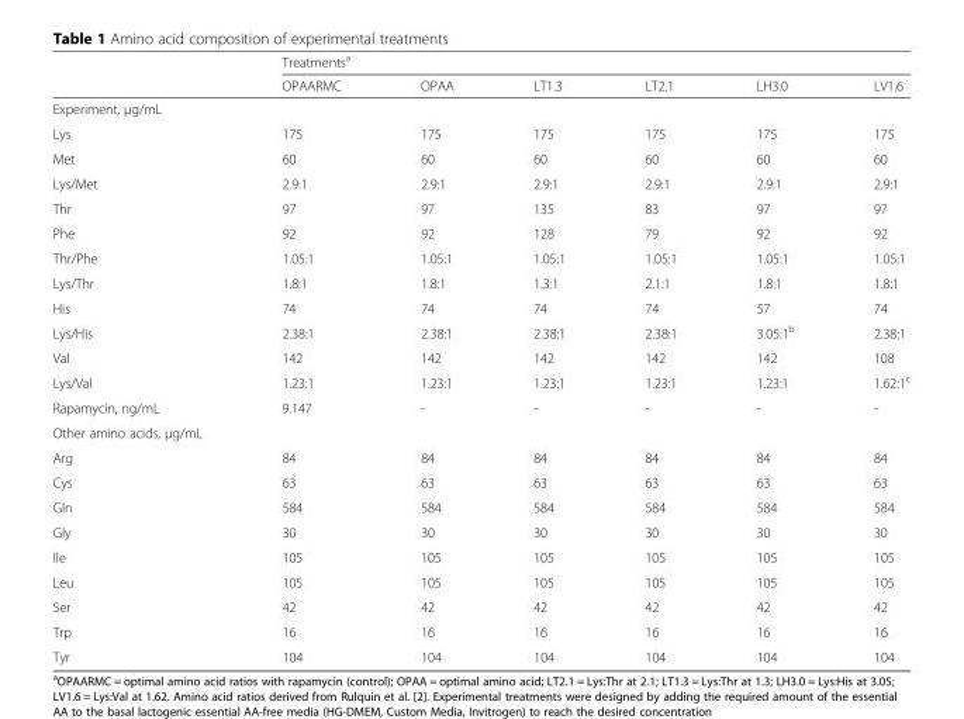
<table><thead><tr><td rowspan="2"></td><td colspan="6">Treatments<sup>a</sup></td></tr><tr><td>OPAARMC</td><td>OPAA</td><td>LT1.3</td><td>LT2.1</td><td>LH3.0</td><td>LV1.6</td></tr></thead><tbody><tr><td colspan="7">Experiment, μg/mL</td></tr><tr><td>Lys</td><td>175</td><td>175</td><td>175</td><td>175</td><td>175</td><td>175</td></tr><tr><td>Met</td><td>60</td><td>60</td><td>60</td><td>60</td><td>60</td><td>60</td></tr><tr><td>Lys/Met</td><td>2.9:1</td><td>2.9:1</td><td>2.9:1</td><td>2.9:1</td><td>2.9:1</td><td>2.9:1</td></tr><tr><td>Thr</td><td>97</td><td>97</td><td>135</td><td>83</td><td>97</td><td>97</td></tr><tr><td>Phe</td><td>92</td><td>92</td><td>128</td><td>79</td><td>92</td><td>92</td></tr><tr><td>Thr/Phe</td><td>1.05:1</td><td>1.05:1</td><td>1.05:1</td><td>1.05:1</td><td>1.05:1</td><td>1.05:1</td></tr><tr><td>Lys/Thr</td><td>1.8:1</td><td>1.8:1</td><td>1.3:1</td><td>2.1:1</td><td>1.8:1</td><td>1.8:1</td></tr><tr><td>His</td><td>74</td><td>74</td><td>74</td><td>74</td><td>57</td><td>74</td></tr><tr><td>Lys/His</td><td>2.38:1</td><td>2.38:1</td><td>2.38:1</td><td>2.38:1</td><td>3.05:1<sup>b</sup></td><td>2.38:1</td></tr><tr><td>Val</td><td>142</td><td>142</td><td>142</td><td>142</td><td>142</td><td>108</td></tr><tr><td>Lys/Val</td><td>1.23:1</td><td>1.23:1</td><td>1.23:1</td><td>1.23:1</td><td>1.23:1</td><td>1.62:1<sup>c</sup></td></tr><tr><td>Rapamycin, ng/mL</td><td>9.147</td><td>-</td><td>-</td><td>-</td><td>-</td><td>-</td></tr><tr><td colspan="7">Other amino acids, μg/mL</td></tr><tr><td>Arg</td><td>84</td><td>84</td><td>84</td><td>84</td><td>84</td><td>84</td></tr><tr><td>Cys</td><td>63</td><td>63</td><td>63</td><td>63</td><td>63</td><td>63</td></tr><tr><td>Gln</td><td>584</td><td>584</td><td>584</td><td>584</td><td>584</td><td>584</td></tr><tr><td>Gly</td><td>30</td><td>30</td><td>30</td><td>30</td><td>30</td><td>30</td></tr><tr><td>Ile</td><td>105</td><td>105</td><td>105</td><td>105</td><td>105</td><td>105</td></tr><tr><td>Leu</td><td>105</td><td>105</td><td>105</td><td>105</td><td>105</td><td>105</td></tr><tr><td>Ser</td><td>42</td><td>42</td><td>42</td><td>42</td><td>42</td><td>42</td></tr><tr><td>Trp</td><td>16</td><td>16</td><td>16</td><td>16</td><td>16</td><td>16</td></tr><tr><td>Tyr</td><td>104</td><td>104</td><td>104</td><td>104</td><td>104</td><td>104</td></tr></tbody></table>